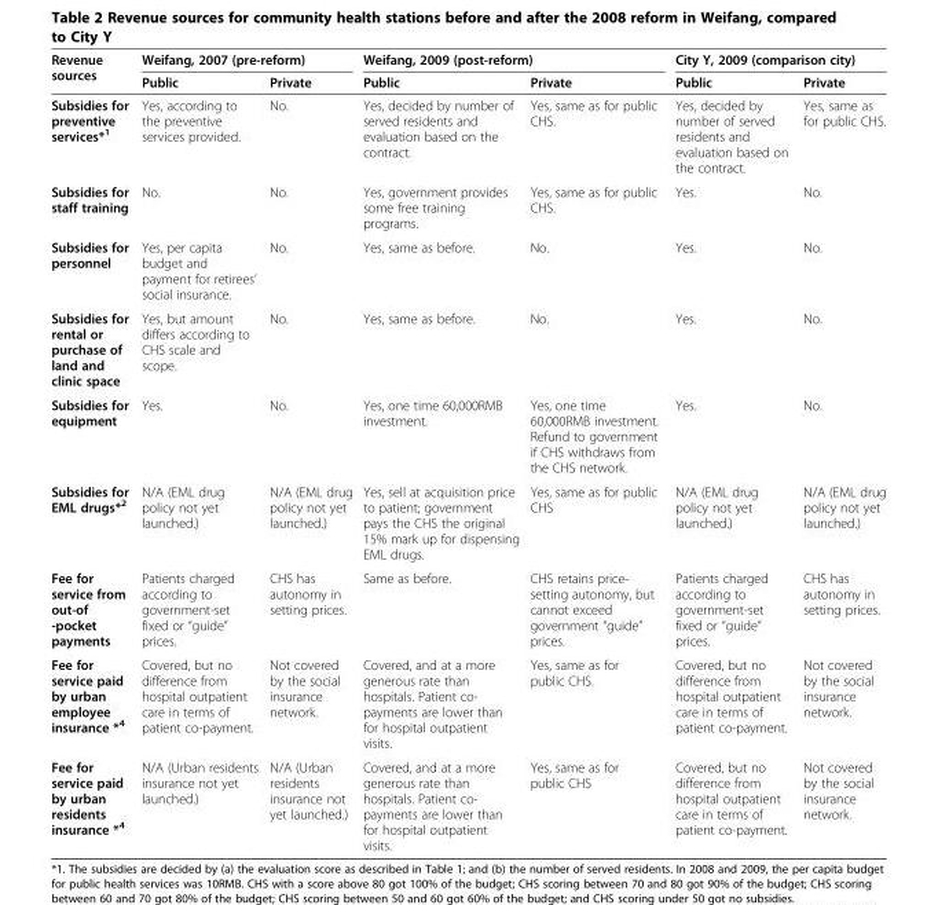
<table><thead><tr><td rowspan="2">Revenue sources</td><td colspan="2">Weifang, 2007 (pre-reform)</td><td colspan="2">Weifang, 2009 (post-reform)</td><td colspan="2">City Y, 2009 (comparison city)</td></tr><tr><td>Public</td><td>Private</td><td>Public</td><td>Private</td><td>Public</td><td>Private</td></tr></thead><tbody><tr><td>Subsidies for preventive services*<sup>1</sup></td><td>Yes, according to the preventive services provided.</td><td>No.</td><td>Yes, decided by number of served residents and evaluation based on the contract.</td><td>Yes, same as for public CHS.</td><td>Yes, decided by number of served residents and evaluation based on the contract.</td><td>Yes, same as for public CHS.</td></tr><tr><td>Subsidies for staff training</td><td>No.</td><td>No.</td><td>Yes, government provides some free training programs.</td><td>Yes, same as for public CHS.</td><td>Yes.</td><td>No.</td></tr><tr><td>Subsidies for personnel</td><td>Yes, per capita budget and payment for retirees’ social insurance.</td><td>No.</td><td>Yes, same as before.</td><td>No.</td><td>Yes.</td><td>No.</td></tr><tr><td>Subsidies for rental or purchase of land and clinic space</td><td>Yes, but amount differs according to CHS scale and scope.</td><td>No.</td><td>Yes, same as before.</td><td>No.</td><td>Yes.</td><td>No.</td></tr><tr><td>Subsidies for equipment</td><td>Yes.</td><td>No.</td><td>Yes, one time 60,000RMB investment.</td><td>Yes, one time 60,000RMB investment. Refund to government if CHS withdraws from the CHS network.</td><td>Yes.</td><td>No.</td></tr><tr><td>Subsidies for EML drugs*<sup>2</sup></td><td>N/A (EML drug policy not yet launched.)</td><td>N/A (EML drug policy not yet launched.)</td><td>Yes, sell at acquisition price to patient; government pays the CHS the original 15% mark up for dispensing EML drugs.</td><td>Yes, same as for public CHS</td><td>N/A (EML drug policy not yet launched.)</td><td>N/A (EML drug policy not yet launched.)</td></tr><tr><td>Fee for service from out-of -pocket payments</td><td>Patients charged according to government-set fixed or “guide” prices.</td><td>CHS has autonomy in setting prices.</td><td>Same as before.</td><td>CHS retains price- setting autonomy, but cannot exceed government “guide” prices.</td><td>Patients charged according to government-set fixed or “guide” prices.</td><td>CHS has autonomy in setting prices.</td></tr><tr><td>Fee for service paid by urban employee insurance *<sup>4</sup></td><td>Covered, but no difference from hospital outpatient care in terms of patient co-payment.</td><td>Not covered by the social insurance network.</td><td>Covered, and at a more generous rate than hospitals. Patient co- payments are lower than for hospital outpatient visits.</td><td>Yes, same as for public CHS.</td><td>Covered, but no difference from hospital outpatient care in terms of patient co-payment.</td><td>Not covered by the social insurance network.</td></tr><tr><td>Fee for service paid by urban residents insurance *<sup>4</sup></td><td>N/A (Urban residents insurance not yet launched.)</td><td>N/A (Urban residents insurance not yet launched.)</td><td>Covered, and at a more generous rate than hospitals. Patient co- payments are lower than for hospital outpatient visits.</td><td>Yes, same as for public CHS</td><td>Covered, but no difference from hospital outpatient care in terms of patient co-payment.</td><td>Not covered by the social insurance network.</td></tr></tbody></table>